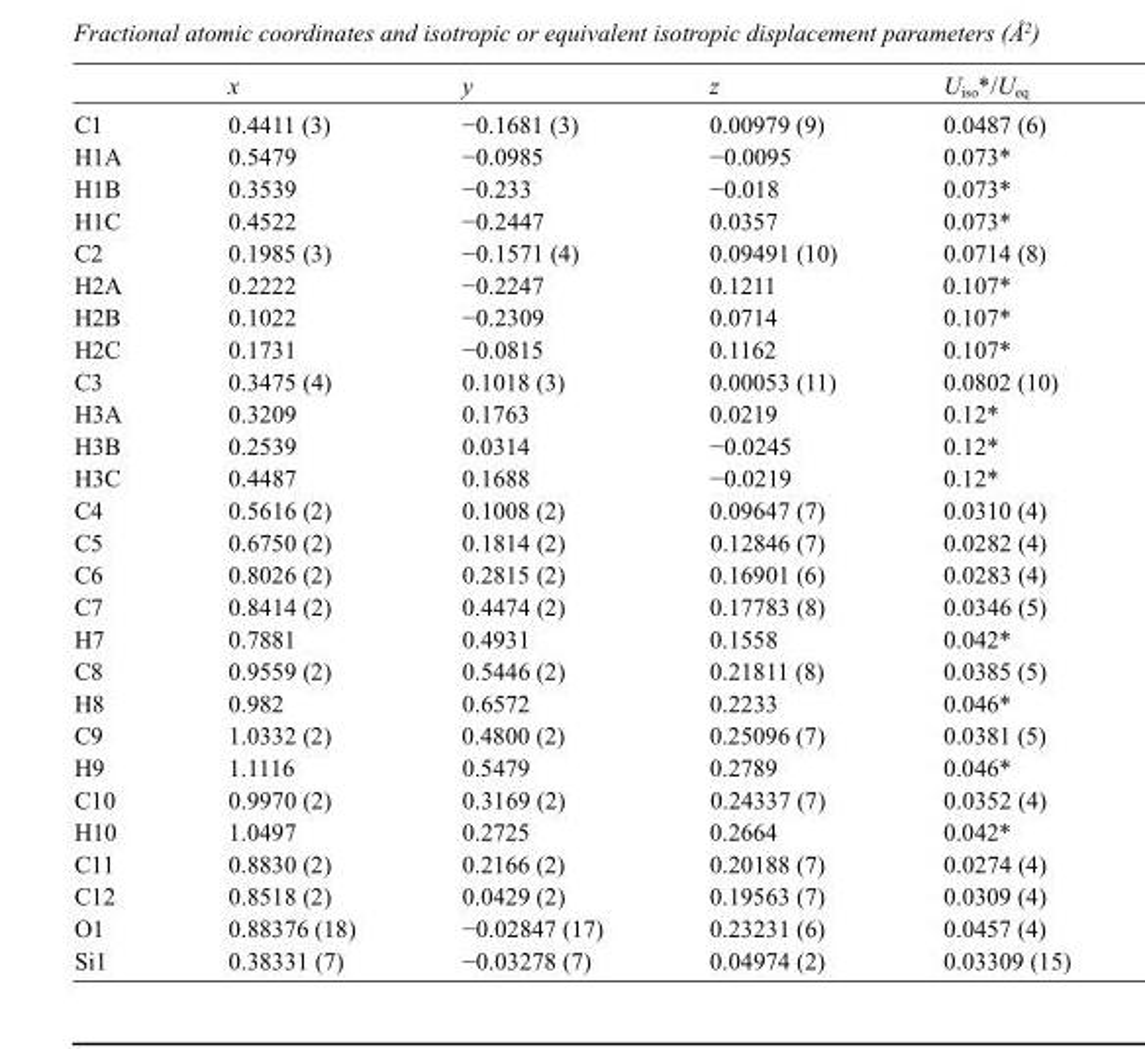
<table><thead><tr><td></td><td>x</td><td>y</td><td>z</td><td>U<sub>iso</sub>*/U<sub>eq</sub></td></tr></thead><tbody><tr><td>C1</td><td>0.4411 (3)</td><td>−0.1681 (3)</td><td>0.00979 (9)</td><td>0.0487 (6)</td></tr><tr><td>H1A</td><td>0.5479</td><td>−0.0985</td><td>−0.0095</td><td>0.073*</td></tr><tr><td>H1B</td><td>0.3539</td><td>−0.233</td><td>−0.018</td><td>0.073*</td></tr><tr><td>H1C</td><td>0.4522</td><td>−0.2447</td><td>0.0357</td><td>0.073*</td></tr><tr><td>C2</td><td>0.1985 (3)</td><td>−0.1571 (4)</td><td>0.09491 (10)</td><td>0.0714 (8)</td></tr><tr><td>H2A</td><td>0.2222</td><td>−0.2247</td><td>0.1211</td><td>0.107*</td></tr><tr><td>H2B</td><td>0.1022</td><td>−0.2309</td><td>0.0714</td><td>0.107*</td></tr><tr><td>H2C</td><td>0.1731</td><td>−0.0815</td><td>0.1162</td><td>0.107*</td></tr><tr><td>C3</td><td>0.3475 (4)</td><td>0.1018 (3)</td><td>0.00053 (11)</td><td>0.0802 (10)</td></tr><tr><td>H3A</td><td>0.3209</td><td>0.1763</td><td>0.0219</td><td>0.12*</td></tr><tr><td>H3B</td><td>0.2539</td><td>0.0314</td><td>−0.0245</td><td>0.12*</td></tr><tr><td>H3C</td><td>0.4487</td><td>0.1688</td><td>−0.0219</td><td>0.12*</td></tr><tr><td>C4</td><td>0.5616 (2)</td><td>0.1008 (2)</td><td>0.09647 (7)</td><td>0.0310 (4)</td></tr><tr><td>C5</td><td>0.6750 (2)</td><td>0.1814 (2)</td><td>0.12846 (7)</td><td>0.0282 (4)</td></tr><tr><td>C6</td><td>0.8026 (2)</td><td>0.2815 (2)</td><td>0.16901 (6)</td><td>0.0283 (4)</td></tr><tr><td>C7</td><td>0.8414 (2)</td><td>0.4474 (2)</td><td>0.17783 (8)</td><td>0.0346 (5)</td></tr><tr><td>H7</td><td>0.7881</td><td>0.4931</td><td>0.1558</td><td>0.042*</td></tr><tr><td>C8</td><td>0.9559 (2)</td><td>0.5446 (2)</td><td>0.21811 (8)</td><td>0.0385 (5)</td></tr><tr><td>H8</td><td>0.982</td><td>0.6572</td><td>0.2233</td><td>0.046*</td></tr><tr><td>C9</td><td>1.0332 (2)</td><td>0.4800 (2)</td><td>0.25096 (7)</td><td>0.0381 (5)</td></tr><tr><td>H9</td><td>1.1116</td><td>0.5479</td><td>0.2789</td><td>0.046*</td></tr><tr><td>C10</td><td>0.9970 (2)</td><td>0.3169 (2)</td><td>0.24337 (7)</td><td>0.0352 (4)</td></tr><tr><td>H10</td><td>1.0497</td><td>0.2725</td><td>0.2664</td><td>0.042*</td></tr><tr><td>C11</td><td>0.8830 (2)</td><td>0.2166 (2)</td><td>0.20188 (7)</td><td>0.0274 (4)</td></tr><tr><td>C12</td><td>0.8518 (2)</td><td>0.0429 (2)</td><td>0.19563 (7)</td><td>0.0309 (4)</td></tr><tr><td>O1</td><td>0.88376 (18)</td><td>−0.02847 (17)</td><td>0.23231 (6)</td><td>0.0457 (4)</td></tr><tr><td>Si1</td><td>0.38331 (7)</td><td>−0.03278 (7)</td><td>0.04974 (2)</td><td>0.03309 (15)</td></tr></tbody></table>